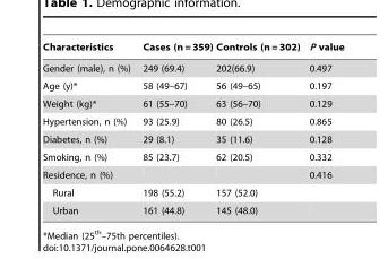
<table><thead><tr><td>Characteristics</td><td>Cases (n = 359)</td><td>Controls (n = 302)</td><td>P value</td></tr></thead><tbody><tr><td>Gender (male), n (%)</td><td>249 (69.4)</td><td>202(66.9)</td><td>0.497</td></tr><tr><td>Age (y)*</td><td>58 (49–67)</td><td>56 (49–65)</td><td>0.197</td></tr><tr><td>Weight (kg)*</td><td>61 (55–70)</td><td>63 (56–70)</td><td>0.129</td></tr><tr><td>Hypertension, n (%)</td><td>93 (25.9)</td><td>80 (26.5)</td><td>0.865</td></tr><tr><td>Diabetes, n (%)</td><td>29 (8.1)</td><td>35 (11.6)</td><td>0.128</td></tr><tr><td>Smoking, n (%)</td><td>85 (23.7)</td><td>62 (20.5)</td><td>0.332</td></tr><tr><td>Residence, n (%)</td><td></td><td></td><td>0.416</td></tr><tr><td>Rural</td><td>198 (55.2)</td><td>157 (52.0)</td><td></td></tr><tr><td>Urban</td><td>161 (44.8)</td><td>145 (48.0)</td><td></td></tr></tbody></table>